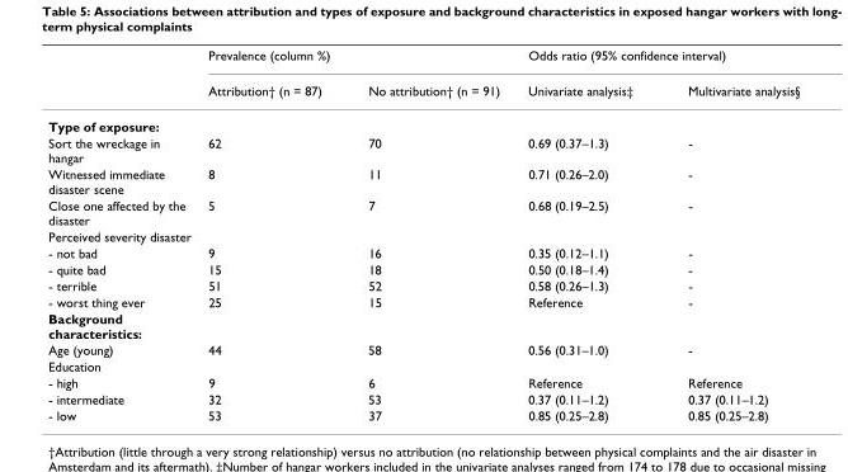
<table><thead><tr><td rowspan="2"></td><td colspan="2">Prevalence (column %)</td><td colspan="2">Odds ratio (95% confidence interval)</td></tr><tr><td>Attribution† (n = 87)</td><td>No attribution† (n = 91)</td><td>Univariate analysis‡</td><td>Multivariate analysis§</td></tr></thead><tbody><tr><td colspan="5">Type of exposure:</td></tr><tr><td>Sort the wreckage in hangar</td><td>62</td><td>70</td><td>0.69 (0.37–1.3)</td><td>-</td></tr><tr><td>Witnessed immediate disaster scene</td><td>8</td><td>11</td><td>0.71 (0.26–2.0)</td><td>-</td></tr><tr><td>Close one affected by the disaster</td><td>5</td><td>7</td><td>0.68 (0.19–2.5)</td><td>-</td></tr><tr><td colspan="5">Perceived severity disaster</td></tr><tr><td>- not bad</td><td>9</td><td>16</td><td>0.35 (0.12–1.1)</td><td>-</td></tr><tr><td>- quite bad</td><td>15</td><td>18</td><td>0.50 (0.18–1.4)</td><td>-</td></tr><tr><td>- terrible</td><td>51</td><td>52</td><td>0.58 (0.26–1.3)</td><td>-</td></tr><tr><td>- worst thing ever</td><td>25</td><td>15</td><td>Reference</td><td>-</td></tr><tr><td colspan="5">Background characteristics:</td></tr><tr><td>Age (young)</td><td>44</td><td>58</td><td>0.56 (0.31–1.0)</td><td>-</td></tr><tr><td colspan="5">Education</td></tr><tr><td>- high</td><td>9</td><td>6</td><td>Reference</td><td>Reference</td></tr><tr><td>- intermediate</td><td>32</td><td>53</td><td>0.37 (0.11–1.2)</td><td>0.37 (0.11–1.2)</td></tr><tr><td>- low</td><td>53</td><td>37</td><td>0.85 (0.25–2.8)</td><td>0.85 (0.25–2.8)</td></tr></tbody></table>